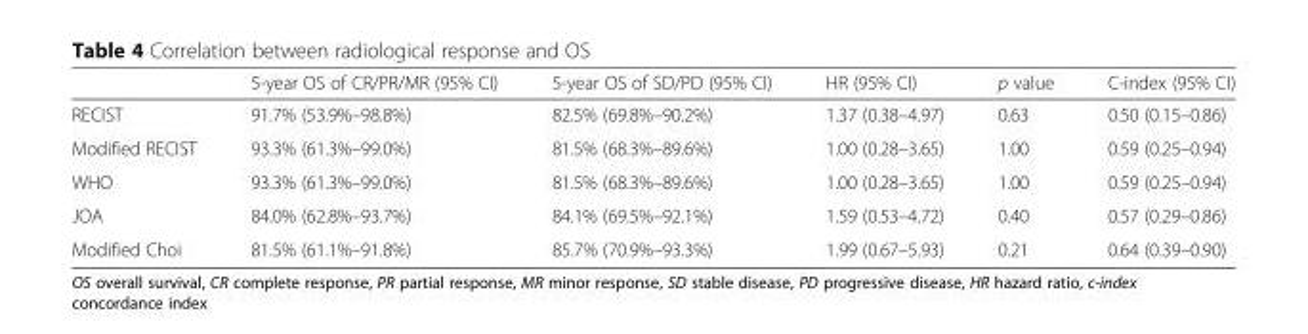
<table><thead><tr><td></td><td>5-year OS of CR/PR/MR (95% CI)</td><td>5-year OS of SD/PD (95% CI)</td><td>HR (95% CI)</td><td>p value</td><td>C-index (95% CI)</td></tr></thead><tbody><tr><td>RECIST</td><td>91.7% (53.9%–98.8%)</td><td>82.5% (69.8%–90.2%)</td><td>1.37 (0.38–4.97)</td><td>0.63</td><td>0.50 (0.15–0.86)</td></tr><tr><td>Modified RECIST</td><td>93.3% (61.3%–99.0%)</td><td>81.5% (68.3%–89.6%)</td><td>1.00 (0.28–3.65)</td><td>1.00</td><td>0.59 (0.25–0.94)</td></tr><tr><td>WHO</td><td>93.3% (61.3%–99.0%)</td><td>81.5% (68.3%–89.6%)</td><td>1.00 (0.28–3.65)</td><td>1.00</td><td>0.59 (0.25–0.94)</td></tr><tr><td>JOA</td><td>84.0% (62.8%–93.7%)</td><td>84.1% (69.5%–92.1%)</td><td>1.59 (0.53–4.72)</td><td>0.40</td><td>0.57 (0.29–0.86)</td></tr><tr><td>Modified Choi</td><td>81.5% (61.1%–91.8%)</td><td>85.7% (70.9%–93.3%)</td><td>1.99 (0.67–5.93)</td><td>0.21</td><td>0.64 (0.39–0.90)</td></tr></tbody></table>